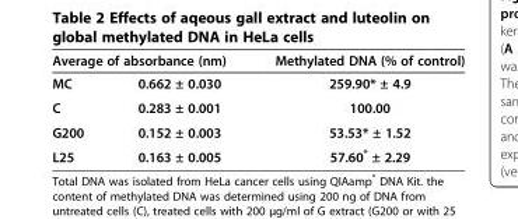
<table><thead><tr><td colspan="2">Average of absorbance (nm)</td><td rowspan="2">Methylated DNA (% of control) 259.90* ± 4.9</td></tr><tr><td>MC</td><td>0.662 ± 0.030</td></tr></thead><tbody><tr><td>C</td><td>0.283 ± 0.001</td><td>100.00</td></tr><tr><td>G200</td><td>0.152 ± 0.003</td><td>53.53* ± 1.52</td></tr><tr><td>L25</td><td>0.163 ± 0.005</td><td>57.60* ± 2.29</td></tr></tbody></table>